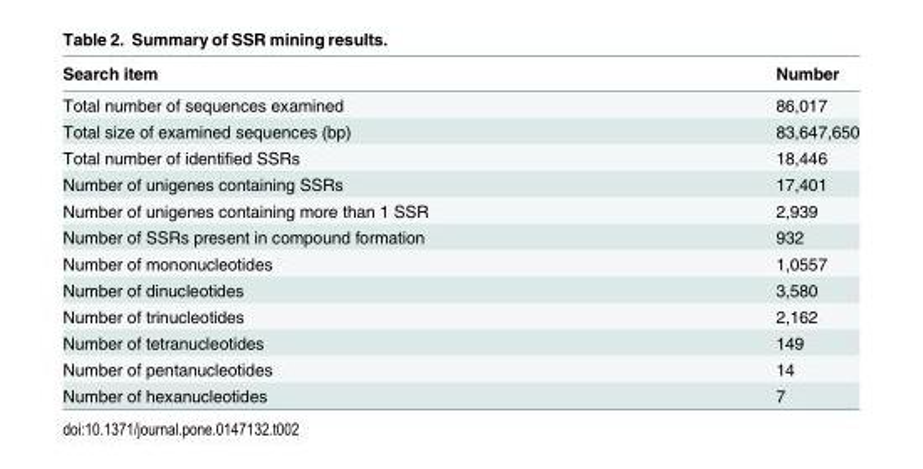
<table><thead><tr><td>Search item</td><td>Number</td></tr></thead><tbody><tr><td>Total number of sequences examined</td><td>86,017</td></tr><tr><td>Total size of examined sequences (bp)</td><td>83,647,650</td></tr><tr><td>Total number of identified SSRs</td><td>18,446</td></tr><tr><td>Number of unigenes containing SSRs</td><td>17,401</td></tr><tr><td>Number of unigenes containing more than 1 SSR</td><td>2,939</td></tr><tr><td>Number of SSRs present in compound formation</td><td>932</td></tr><tr><td>Number of mononucleotides</td><td>1,0557</td></tr><tr><td>Number of dinucleotides</td><td>3,580</td></tr><tr><td>Number of trinucleotides</td><td>2,162</td></tr><tr><td>Number of tetranucleotides</td><td>149</td></tr><tr><td>Number of pentanucleotides</td><td>14</td></tr><tr><td>Number of hexanucleotides</td><td>7</td></tr></tbody></table>